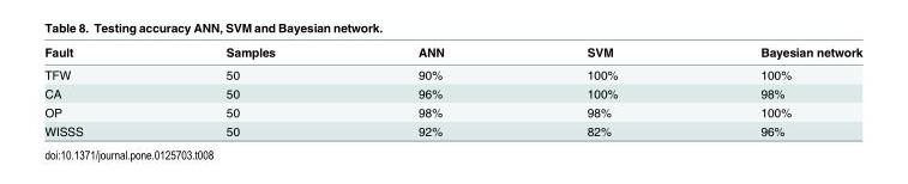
<table><thead><tr><td>Fault</td><td>Samples</td><td>ANN</td><td>SVM</td><td>Bayesian network</td></tr></thead><tbody><tr><td>TFW</td><td>50</td><td>90%</td><td>100%</td><td>100%</td></tr><tr><td>CA</td><td>50</td><td>96%</td><td>100%</td><td>98%</td></tr><tr><td>OP</td><td>50</td><td>98%</td><td>98%</td><td>100%</td></tr><tr><td>WISSS</td><td>50</td><td>92%</td><td>82%</td><td>96%</td></tr></tbody></table>